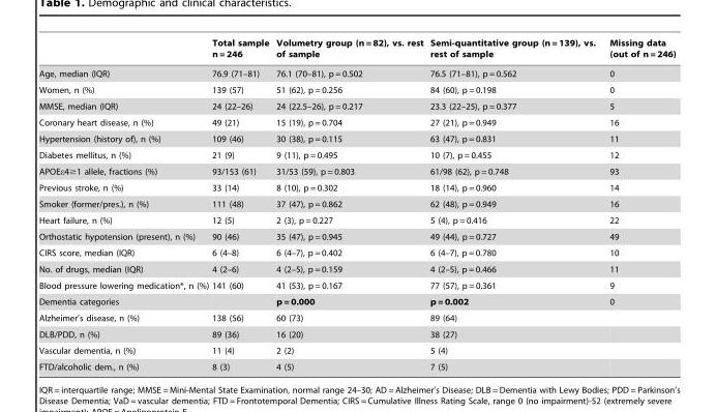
<table><thead><tr><td></td><td>Total sample n = 246</td><td>Volumetry group (n = 82), vs. rest of sample</td><td>Semi-quantitative group (n = 139), vs. rest of sample</td><td>Missing data (out of n = 246)</td></tr></thead><tbody><tr><td>Age, median (IQR)</td><td>76.9 (71–81)</td><td>76.1 (70–81), p = 0.502</td><td>76.5 (71–81), p = 0.562</td><td>0</td></tr><tr><td>Women, n (%)</td><td>139 (57)</td><td>51 (62), p = 0.256</td><td>84 (60), p = 0.198</td><td>0</td></tr><tr><td>MMSE, median (IQR)</td><td>24 (22–26)</td><td>24 (22.5–26), p = 0.217</td><td>23.3 (22–25), p = 0.377</td><td>5</td></tr><tr><td>Coronary heart disease, n (%)</td><td>49 (21)</td><td>15 (19), p = 0.704</td><td>27 (21), p = 0.949</td><td>16</td></tr><tr><td>Hypertension (history of), n (%)</td><td>109 (46)</td><td>30 (38), p = 0.115</td><td>63 (47), p = 0.831</td><td>11</td></tr><tr><td>Diabetes mellitus, n (%)</td><td>21 (9)</td><td>9 (11), p = 0.495</td><td>10 (7), p = 0.455</td><td>12</td></tr><tr><td>APOEε4≥1 allele, fractions (%)</td><td>93/153 (61)</td><td>31/53 (59), p = 0.803</td><td>61/98 (62), p = 0.748</td><td>93</td></tr><tr><td>Previous stroke, n (%)</td><td>33 (14)</td><td>8 (10), p = 0.302</td><td>18 (14), p = 0.960</td><td>14</td></tr><tr><td>Smoker (former/pres.), n (%)</td><td>111 (48)</td><td>37 (47), p = 0.862</td><td>62 (48), p = 0.949</td><td>16</td></tr><tr><td>Heart failure, n (%)</td><td>12 (5)</td><td>2 (3), p = 0.227</td><td>5 (4), p = 0.416</td><td>22</td></tr><tr><td>Orthostatic hypotension (present), n (%)</td><td>90 (46)</td><td>35 (47), p = 0.945</td><td>49 (44), p = 0.727</td><td>49</td></tr><tr><td>CIRS score, median (IQR)</td><td>6 (4–8)</td><td>6 (4–7), p = 0.402</td><td>6 (4–7), p = 0.780</td><td>10</td></tr><tr><td>No. of drugs, median (IQR)</td><td>4 (2–6)</td><td>4 (2–5), p = 0.159</td><td>4 (2–5), p = 0.466</td><td>11</td></tr><tr><td>Blood pressure lowering medication*, n (%)</td><td>141 (60)</td><td>41 (53), p = 0.167</td><td>77 (57), p = 0.361</td><td>9</td></tr><tr><td>Dementia categories</td><td></td><td>p = 0.000</td><td>p = 0.002</td><td>0</td></tr><tr><td>Alzheimer’s disease, n (%)</td><td>138 (56)</td><td>60 (73)</td><td>89 (64)</td><td></td></tr><tr><td>DLB/PDD, n (%)</td><td>89 (36)</td><td>16 (20)</td><td>38 (27)</td><td></td></tr><tr><td>Vascular dementia, n (%)</td><td>11 (4)</td><td>2 (2)</td><td>5 (4)</td><td></td></tr><tr><td>FTD/alcoholic dem., n (%)</td><td>8 (3)</td><td>4 (5)</td><td>7 (5)</td><td></td></tr></tbody></table>